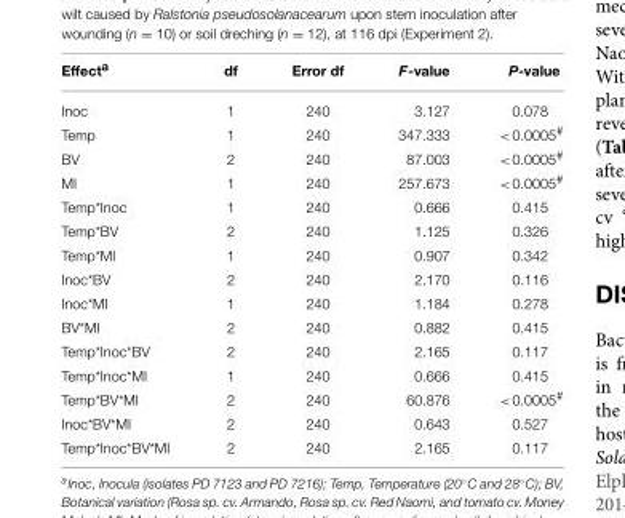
<table><thead><tr><td>Effect<sup>a</sup></td><td>df</td><td>Error df</td><td>F-value</td><td>P-value</td></tr></thead><tbody><tr><td>Inoc</td><td>1</td><td>240</td><td>3.127</td><td>0.078</td></tr><tr><td>Temp</td><td>1</td><td>240</td><td>347.333</td><td>&lt;0.0005<sup>#</sup></td></tr><tr><td>BV</td><td>2</td><td>240</td><td>87.003</td><td>&lt;0.0005<sup>#</sup></td></tr><tr><td>MI</td><td>1</td><td>240</td><td>257.673</td><td>&lt;0.0005<sup>#</sup></td></tr><tr><td>Temp*Inoc</td><td>1</td><td>240</td><td>0.666</td><td>0.415</td></tr><tr><td>Temp*BV</td><td>2</td><td>240</td><td>1.125</td><td>0.326</td></tr><tr><td>Temp*MI</td><td>1</td><td>240</td><td>0.907</td><td>0.342</td></tr><tr><td>Inoc*BV</td><td>2</td><td>240</td><td>2.170</td><td>0.116</td></tr><tr><td>Inoc*MI</td><td>1</td><td>240</td><td>1.184</td><td>0.278</td></tr><tr><td>BV*MI</td><td>2</td><td>240</td><td>0.882</td><td>0.415</td></tr><tr><td>Temp*Inoc*BV</td><td>2</td><td>240</td><td>2.165</td><td>0.117</td></tr><tr><td>Temp*Inoc*MI</td><td>1</td><td>240</td><td>0.666</td><td>0.415</td></tr><tr><td>Temp*BV*MI</td><td>2</td><td>240</td><td>60.876</td><td>&lt;0.0005<sup>#</sup></td></tr><tr><td>Inoc*BV*MI</td><td>2</td><td>240</td><td>0.643</td><td>0.527</td></tr><tr><td>Temp*Inoc*BV*MI</td><td>2</td><td>240</td><td>2.165</td><td>0.117</td></tr></tbody></table>